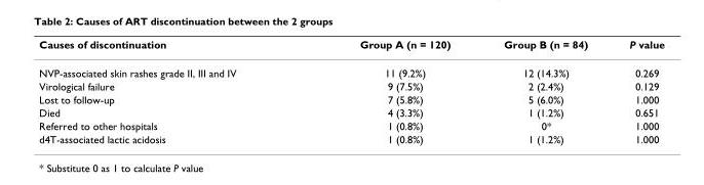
<table><thead><tr><td>Causes of discontinuation</td><td>Group A (n = 120)</td><td>Group B (n = 84)</td><td>P value</td></tr></thead><tbody><tr><td>NVP-associated skin rashes grade II, III and IV</td><td>11 (9.2%)</td><td>12 (14.3%)</td><td>0.269</td></tr><tr><td>Virological failure</td><td>9 (7.5%)</td><td>2 (2.4%)</td><td>0.129</td></tr><tr><td>Lost to follow-up</td><td>7 (5.8%)</td><td>5 (6.0%)</td><td>1.000</td></tr><tr><td>Died</td><td>4 (3.3%)</td><td>1 (1.2%)</td><td>0.651</td></tr><tr><td>Referred to other hospitals</td><td>1 (0.8%)</td><td>0*</td><td>1.000</td></tr><tr><td>d4T-associated lactic acidosis</td><td>1 (0.8%)</td><td>1 (1.2%)</td><td>1.000</td></tr></tbody></table>